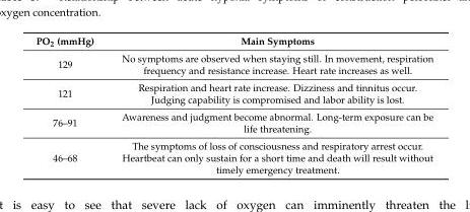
<table><thead><tr><td>PO<sub>2</sub> (mmHg)</td><td>Main Symptoms</td></tr></thead><tbody><tr><td>129</td><td>No symptoms are observed when staying still. In movement, respiration frequency and resistance increase. Heart rate increases as well.</td></tr><tr><td>121</td><td>Respiration and heart rate increase. Dizziness and tinnitus occur. Judging capability is compromised and labor ability is lost.</td></tr><tr><td>76–91</td><td>Awareness and judgment become abnormal. Long-term exposure can be life threatening.</td></tr><tr><td>46–68</td><td>The symptoms of loss of consciousness and respiratory arrest occur. Heartbeat can only sustain for a short time and death will result without timely emergency treatment.</td></tr></tbody></table>